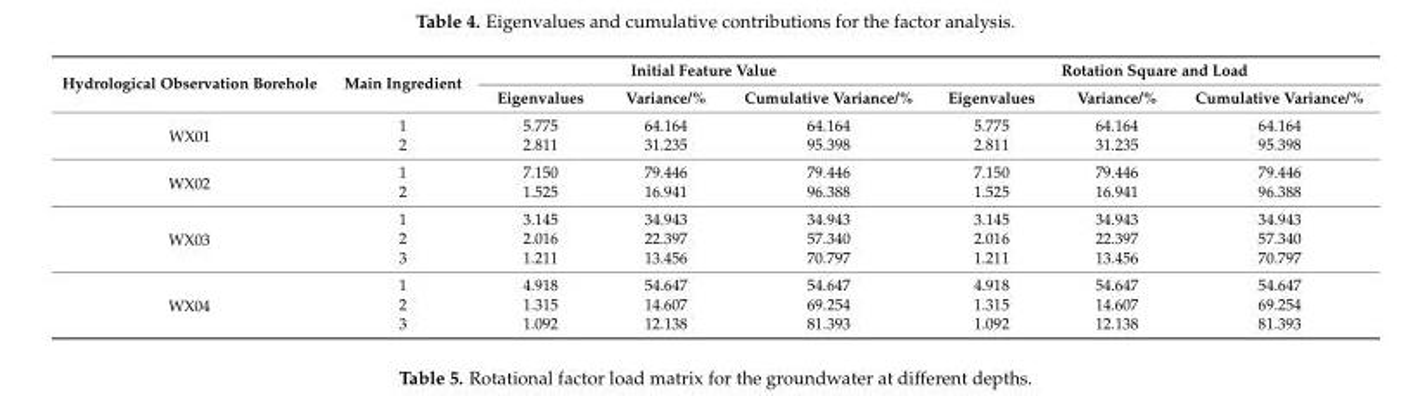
<table><thead><tr><td rowspan="2">Hydrological Observation Borehole</td><td rowspan="2">Main Ingredient</td><td colspan="3">Initial Feature Value</td><td colspan="3">Rotation Square and Load</td></tr><tr><td>Eigenvalues</td><td>Variance/%</td><td>Cumulative Variance/%</td><td>Eigenvalues</td><td>Variance/%</td><td>Cumulative Variance/%</td></tr></thead><tbody><tr><td rowspan="2">WX01</td><td>1</td><td>5.775</td><td>64.164</td><td>64.164</td><td>5.775</td><td>64.164</td><td>64.164</td></tr><tr><td>2</td><td>2.811</td><td>31.235</td><td>95.398</td><td>2.811</td><td>31.235</td><td>95.398</td></tr><tr><td rowspan="2">WX02</td><td>1</td><td>7.150</td><td>79.446</td><td>79.446</td><td>7.150</td><td>79.446</td><td>79.446</td></tr><tr><td>2</td><td>1.525</td><td>16.941</td><td>96.388</td><td>1.525</td><td>16.941</td><td>96.388</td></tr><tr><td rowspan="3">WX03</td><td>1</td><td>3.145</td><td>34.943</td><td>34.943</td><td>3.145</td><td>34.943</td><td>34.943</td></tr><tr><td>2</td><td>2.016</td><td>22.397</td><td>57.340</td><td>2.016</td><td>22.397</td><td>57.340</td></tr><tr><td>3</td><td>1.211</td><td>13.456</td><td>70.797</td><td>1.211</td><td>13.456</td><td>70.797</td></tr><tr><td rowspan="3">WX04</td><td>1</td><td>4.918</td><td>54.647</td><td>54.647</td><td>4.918</td><td>54.647</td><td>54.647</td></tr><tr><td>2</td><td>1.315</td><td>14.607</td><td>69.254</td><td>1.315</td><td>14.607</td><td>69.254</td></tr><tr><td>3</td><td>1.092</td><td>12.138</td><td>81.393</td><td>1.092</td><td>12.138</td><td>81.393</td></tr></tbody></table>